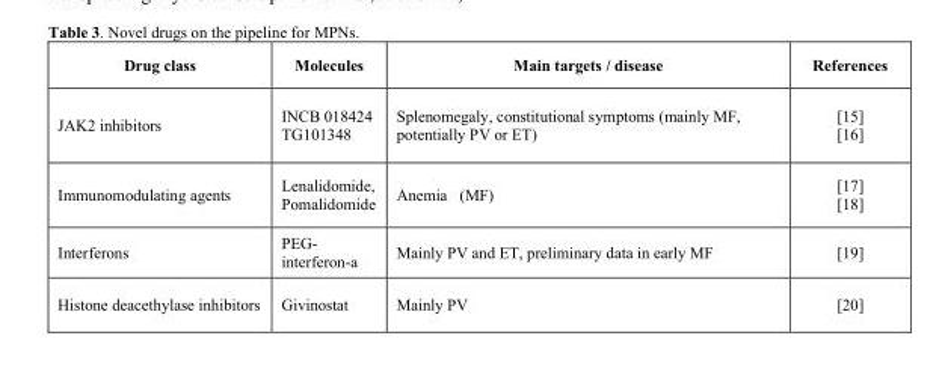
<table><thead><tr><td>Drug class</td><td>Molecules</td><td>Main targets / disease</td><td>References</td></tr></thead><tbody><tr><td>JAK2 inhibitors</td><td>INCB 018424 TG101348</td><td>Splenomegaly, constitutional symptoms (mainly MF, potentially PV or ET)</td><td>[15] [16]</td></tr><tr><td>Immunomodulating agents</td><td>Lenalidomide, Pomalidomide</td><td>Anemia (MF)</td><td>[17] [18]</td></tr><tr><td>Interferons</td><td>PEG- interferon-a</td><td>Mainly PV and ET, preliminary data in early MF</td><td>[19]</td></tr><tr><td>Histone deacethylase inhibitors</td><td>Givinostat</td><td>Mainly PV</td><td>[20]</td></tr></tbody></table>